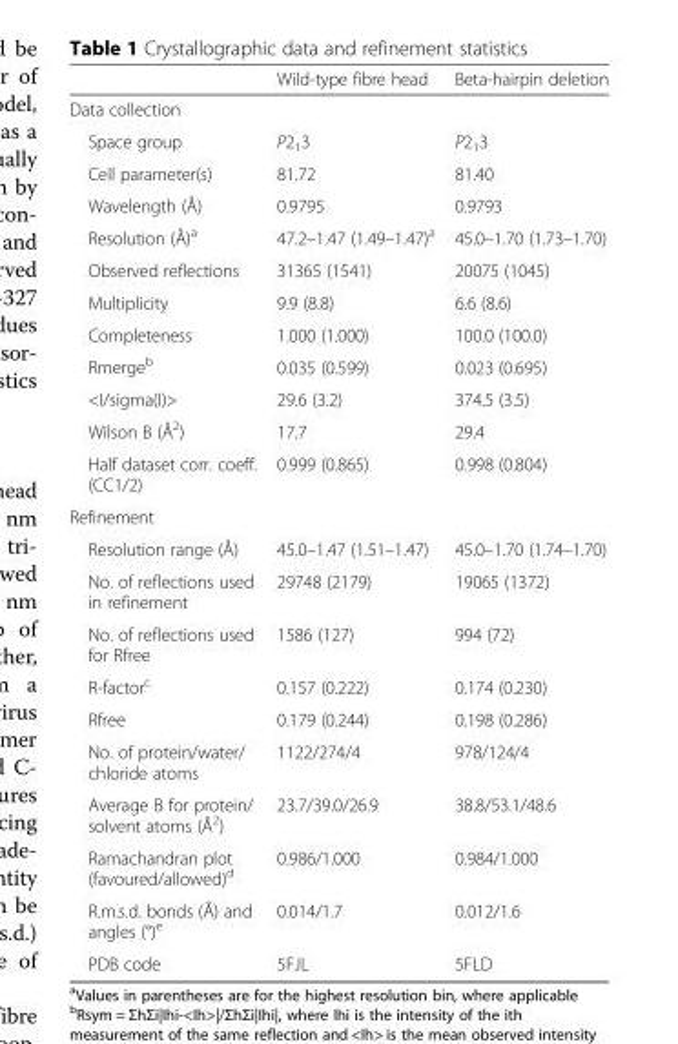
<table><thead><tr><td></td><td>Wild-type fibre head</td><td>Beta-hairpin deletion</td></tr></thead><tbody><tr><td colspan="3">Data collection</td></tr><tr><td>Space group</td><td>P2<sub>1</sub>3</td><td>P2<sub>1</sub>3</td></tr><tr><td>Cell parameter(s)</td><td>81.72</td><td>81.40</td></tr><tr><td>Wavelength (Å)</td><td>0.9795</td><td>0.9793</td></tr><tr><td>Resolution (Å)<sup>a</sup></td><td>47.2–1.47 (1.49–1.47)<sup>a</sup></td><td>45.0–1.70 (1.73–1.70)</td></tr><tr><td>Observed reflections</td><td>31365 (1541)</td><td>20075 (1045)</td></tr><tr><td>Multiplicity</td><td>9.9 (8.8)</td><td>6.6 (8.6)</td></tr><tr><td>Completeness</td><td>1.000 (1.000)</td><td>100.0 (100.0)</td></tr><tr><td>Rmerge<sup>b</sup></td><td>0.035 (0.599)</td><td>0.023 (0.695)</td></tr><tr><td>&lt;I/sigma(I)&gt;</td><td>29.6 (3.2)</td><td>374.5 (3.5)</td></tr><tr><td>Wilson B (Å<sup>2</sup>)</td><td>17.7</td><td>29.4</td></tr><tr><td>Half dataset corr. coeff. (CC1/2)</td><td>0.999 (0.865)</td><td>0.998 (0.804)</td></tr><tr><td colspan="3">Refinement</td></tr><tr><td>Resolution range (Å)</td><td>45.0–1.47 (1.51–1.47)</td><td>45.0–1.70 (1.74–1.70)</td></tr><tr><td>No. of reflections used in refinement</td><td>29748 (2179)</td><td>19065 (1372)</td></tr><tr><td>No. of reflections used for Rfree</td><td>1586 (127)</td><td>994 (72)</td></tr><tr><td>R-factor<sup>c</sup></td><td>0.157 (0.222)</td><td>0.174 (0.230)</td></tr><tr><td>Rfree</td><td>0.179 (0.244)</td><td>0.198 (0.286)</td></tr><tr><td>No. of protein/water/ chloride atoms</td><td>1122/274/4</td><td>978/124/4</td></tr><tr><td>Average B for protein/ solvent atoms (Å<sup>2</sup>)</td><td>23.7/39.0/26.9</td><td>38.8/53.1/48.6</td></tr><tr><td>Ramachandran plot (favoured/allowed)<sup>d</sup></td><td>0.986/1.000</td><td>0.984/1.000</td></tr><tr><td>R.m.s.d. bonds (Å) and angles (°)<sup>e</sup></td><td>0.014/1.7</td><td>0.012/1.6</td></tr><tr><td>PDB code</td><td>5FJL</td><td>5FLD</td></tr></tbody></table>